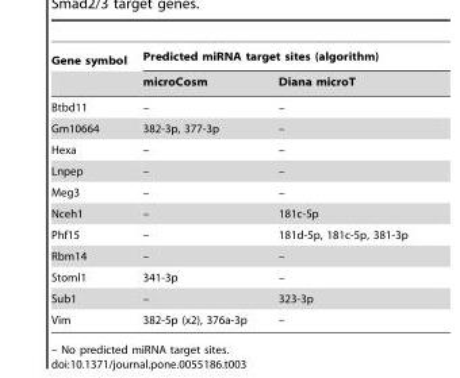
<table><thead><tr><td rowspan="2">Gene symbol</td><td colspan="2">Predicted miRNA target sites (algorithm)</td></tr><tr><td>microCosm</td><td>Diana microT</td></tr></thead><tbody><tr><td>Btbd11</td><td>–</td><td>–</td></tr><tr><td>Gm10664</td><td>382-3p, 377-3p</td><td>–</td></tr><tr><td>Hexa</td><td>–</td><td>–</td></tr><tr><td>Lnpep</td><td>–</td><td>–</td></tr><tr><td>Meg3</td><td>–</td><td>–</td></tr><tr><td>Nceh1</td><td>–</td><td>181c-5p</td></tr><tr><td>Phf15</td><td>–</td><td>181d-5p, 181c-5p, 381-3p</td></tr><tr><td>Rbm14</td><td>–</td><td>–</td></tr><tr><td>Stoml1</td><td>341-3p</td><td>–</td></tr><tr><td>Sub1</td><td>–</td><td>323-3p</td></tr><tr><td>Vim</td><td>382-5p (x2), 376a-3p</td><td>–</td></tr></tbody></table>